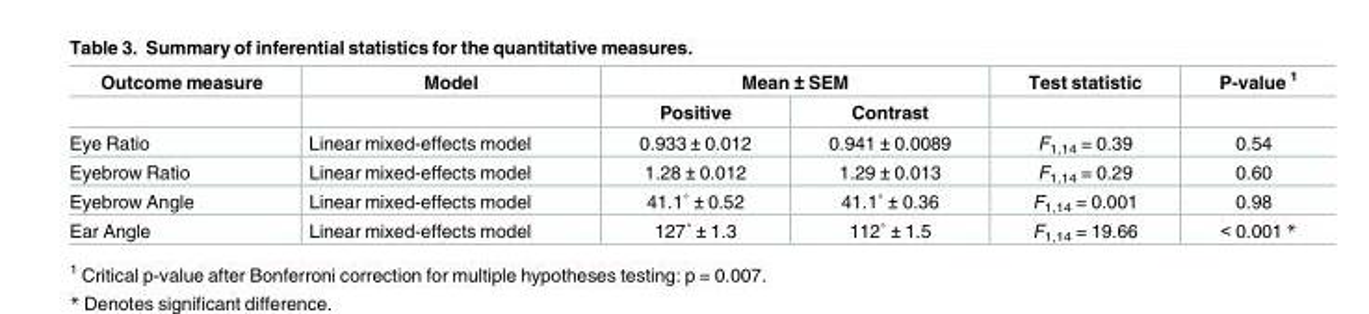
<table><thead><tr><td rowspan="2">Outcome measure</td><td rowspan="2">Model</td><td colspan="2">Mean ± SEM</td><td rowspan="2">Test statistic</td><td rowspan="2">P-value <sup>1</sup></td></tr><tr><td>Positive</td><td>Contrast</td></tr></thead><tbody><tr><td>Eye Ratio</td><td>Linear mixed-effects model</td><td>0.933 ± 0.012</td><td>0.941 ± 0.0089</td><td>F<sub>1,14</sub> = 0.39</td><td>0.54</td></tr><tr><td>Eyebrow Ratio</td><td>Linear mixed-effects model</td><td>1.28 ± 0.012</td><td>1.29 ± 0.013</td><td>F<sub>1,14</sub> = 0.29</td><td>0.60</td></tr><tr><td>Eyebrow Angle</td><td>Linear mixed-effects model</td><td>41.1˚ ± 0.52</td><td>41.1˚ ± 0.36</td><td>F<sub>1,14</sub> = 0.001</td><td>0.98</td></tr><tr><td>Ear Angle</td><td>Linear mixed-effects model</td><td>127˚ ± 1.3</td><td>112˚ ± 1.5</td><td>F<sub>1,14</sub> = 19.66</td><td>&lt; 0.001 *</td></tr></tbody></table>